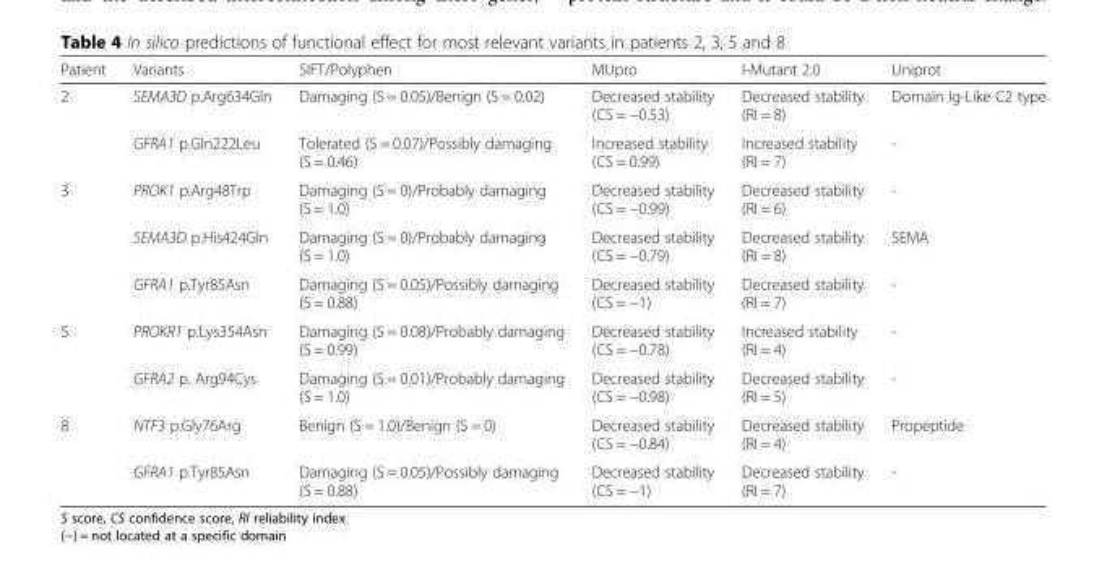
<table><thead><tr><td>Patient</td><td>Variants</td><td>SIFT/Polyphen</td><td>MUpro</td><td>I-Mutant 2.0</td><td>Uniprot</td></tr></thead><tbody><tr><td rowspan="2">2</td><td>SEMA3D p.Arg634Gln</td><td>Damaging (S = 0.05)/Benign (S = 0.02)</td><td>Decreased stability (CS = −0.53)</td><td>Decreased stability (RI = 8)</td><td>Domain Ig-Like C2 type</td></tr><tr><td>GFRA1 p.Gln222Leu</td><td>Tolerated (S = 0.07)/Possibly damaging (S = 0.46)</td><td>Increased stability (CS = 0.99)</td><td>Increased stability (RI = 7)</td><td>-</td></tr><tr><td rowspan="3">3</td><td>PROK1 p.Arg48Trp</td><td>Damaging (S = 0)/Probably damaging (S = 1.0)</td><td>Decreased stability (CS = −0.99)</td><td>Decreased stability (RI = 6)</td><td>-</td></tr><tr><td>SEMA3D p.His424Gln</td><td>Damaging (S = 0)/Probably damaging (S = 1.0)</td><td>Decreased stability (CS = −0.79)</td><td>Decreased stability (RI = 8)</td><td>SEMA</td></tr><tr><td>GFRA1 p.Tyr85Asn</td><td>Damaging (S = 0.05)/Possibly damaging (S = 0.88)</td><td>Decreased stability (CS = −1)</td><td>Decreased stability (RI = 7)</td><td>-</td></tr><tr><td rowspan="2">5</td><td>PROKR1 p.Lys354Asn</td><td>Damaging (S = 0.08)/Probably damaging (S = 0.99)</td><td>Decreased stability (CS = −0.78)</td><td>Increased stability (RI = 4)</td><td>-</td></tr><tr><td>GFRA2 p. Arg94Cys</td><td>Damaging (S = 0.01)/Probably damaging (S = 1.0)</td><td>Decreased stability (CS = −0.98)</td><td>Decreased stability (RI = 5)</td><td>-</td></tr><tr><td rowspan="2">8</td><td>NTF3 p.Gly76Arg</td><td>Benign (S = 1.0)/Benign (S = 0)</td><td>Decreased stability (CS = −0.84)</td><td>Decreased stability (RI = 4)</td><td>Propeptide</td></tr><tr><td>GFRA1 p.Tyr85Asn</td><td>Damaging (S = 0.05)/Possibly damaging (S = 0.88)</td><td>Decreased stability (CS = −1)</td><td>Decreased stability (RI = 7)</td><td>-</td></tr></tbody></table>